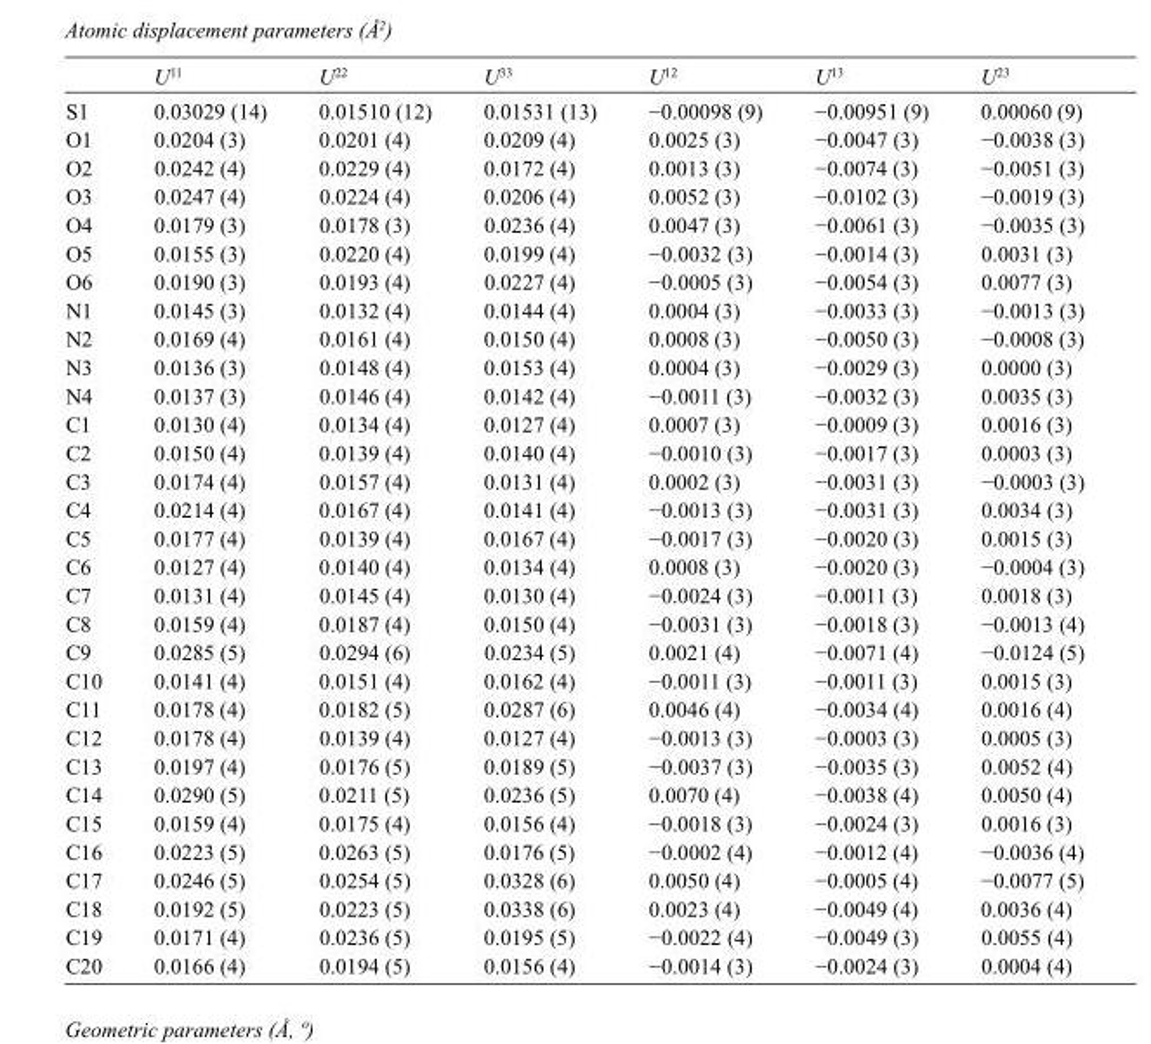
<table><thead><tr><td></td><td>U<sup>11</sup></td><td>U<sup>22</sup></td><td>U<sup>33</sup></td><td>U<sup>12</sup></td><td>U<sup>13</sup></td><td>U<sup>23</sup></td></tr></thead><tbody><tr><td>S1</td><td>0.03029 (14)</td><td>0.01510 (12)</td><td>0.01531 (13)</td><td>−0.00098 (9)</td><td>−0.00951 (9)</td><td>0.00060 (9)</td></tr><tr><td>O1</td><td>0.0204 (3)</td><td>0.0201 (4)</td><td>0.0209 (4)</td><td>0.0025 (3)</td><td>−0.0047 (3)</td><td>−0.0038 (3)</td></tr><tr><td>O2</td><td>0.0242 (4)</td><td>0.0229 (4)</td><td>0.0172 (4)</td><td>0.0013 (3)</td><td>−0.0074 (3)</td><td>−0.0051 (3)</td></tr><tr><td>O3</td><td>0.0247 (4)</td><td>0.0224 (4)</td><td>0.0206 (4)</td><td>0.0052 (3)</td><td>−0.0102 (3)</td><td>−0.0019 (3)</td></tr><tr><td>O4</td><td>0.0179 (3)</td><td>0.0178 (3)</td><td>0.0236 (4)</td><td>0.0047 (3)</td><td>−0.0061 (3)</td><td>−0.0035 (3)</td></tr><tr><td>O5</td><td>0.0155 (3)</td><td>0.0220 (4)</td><td>0.0199 (4)</td><td>−0.0032 (3)</td><td>−0.0014 (3)</td><td>0.0031 (3)</td></tr><tr><td>O6</td><td>0.0190 (3)</td><td>0.0193 (4)</td><td>0.0227 (4)</td><td>−0.0005 (3)</td><td>−0.0054 (3)</td><td>0.0077 (3)</td></tr><tr><td>N1</td><td>0.0145 (3)</td><td>0.0132 (4)</td><td>0.0144 (4)</td><td>0.0004 (3)</td><td>−0.0033 (3)</td><td>−0.0013 (3)</td></tr><tr><td>N2</td><td>0.0169 (4)</td><td>0.0161 (4)</td><td>0.0150 (4)</td><td>0.0008 (3)</td><td>−0.0050 (3)</td><td>−0.0008 (3)</td></tr><tr><td>N3</td><td>0.0136 (3)</td><td>0.0148 (4)</td><td>0.0153 (4)</td><td>0.0004 (3)</td><td>−0.0029 (3)</td><td>0.0000 (3)</td></tr><tr><td>N4</td><td>0.0137 (3)</td><td>0.0146 (4)</td><td>0.0142 (4)</td><td>−0.0011 (3)</td><td>−0.0032 (3)</td><td>0.0035 (3)</td></tr><tr><td>C1</td><td>0.0130 (4)</td><td>0.0134 (4)</td><td>0.0127 (4)</td><td>0.0007 (3)</td><td>−0.0009 (3)</td><td>0.0016 (3)</td></tr><tr><td>C2</td><td>0.0150 (4)</td><td>0.0139 (4)</td><td>0.0140 (4)</td><td>−0.0010 (3)</td><td>−0.0017 (3)</td><td>0.0003 (3)</td></tr><tr><td>C3</td><td>0.0174 (4)</td><td>0.0157 (4)</td><td>0.0131 (4)</td><td>0.0002 (3)</td><td>−0.0031 (3)</td><td>−0.0003 (3)</td></tr><tr><td>C4</td><td>0.0214 (4)</td><td>0.0167 (4)</td><td>0.0141 (4)</td><td>−0.0013 (3)</td><td>−0.0031 (3)</td><td>0.0034 (3)</td></tr><tr><td>C5</td><td>0.0177 (4)</td><td>0.0139 (4)</td><td>0.0167 (4)</td><td>−0.0017 (3)</td><td>−0.0020 (3)</td><td>0.0015 (3)</td></tr><tr><td>C6</td><td>0.0127 (4)</td><td>0.0140 (4)</td><td>0.0134 (4)</td><td>0.0008 (3)</td><td>−0.0020 (3)</td><td>−0.0004 (3)</td></tr><tr><td>C7</td><td>0.0131 (4)</td><td>0.0145 (4)</td><td>0.0130 (4)</td><td>−0.0024 (3)</td><td>−0.0011 (3)</td><td>0.0018 (3)</td></tr><tr><td>C8</td><td>0.0159 (4)</td><td>0.0187 (4)</td><td>0.0150 (4)</td><td>−0.0031 (3)</td><td>−0.0018 (3)</td><td>−0.0013 (4)</td></tr><tr><td>C9</td><td>0.0285 (5)</td><td>0.0294 (6)</td><td>0.0234 (5)</td><td>0.0021 (4)</td><td>−0.0071 (4)</td><td>−0.0124 (5)</td></tr><tr><td>C10</td><td>0.0141 (4)</td><td>0.0151 (4)</td><td>0.0162 (4)</td><td>−0.0011 (3)</td><td>−0.0011 (3)</td><td>0.0015 (3)</td></tr><tr><td>C11</td><td>0.0178 (4)</td><td>0.0182 (5)</td><td>0.0287 (6)</td><td>0.0046 (4)</td><td>−0.0034 (4)</td><td>0.0016 (4)</td></tr><tr><td>C12</td><td>0.0178 (4)</td><td>0.0139 (4)</td><td>0.0127 (4)</td><td>−0.0013 (3)</td><td>−0.0003 (3)</td><td>0.0005 (3)</td></tr><tr><td>C13</td><td>0.0197 (4)</td><td>0.0176 (5)</td><td>0.0189 (5)</td><td>−0.0037 (3)</td><td>−0.0035 (3)</td><td>0.0052 (4)</td></tr><tr><td>C14</td><td>0.0290 (5)</td><td>0.0211 (5)</td><td>0.0236 (5)</td><td>0.0070 (4)</td><td>−0.0038 (4)</td><td>0.0050 (4)</td></tr><tr><td>C15</td><td>0.0159 (4)</td><td>0.0175 (4)</td><td>0.0156 (4)</td><td>−0.0018 (3)</td><td>−0.0024 (3)</td><td>0.0016 (3)</td></tr><tr><td>C16</td><td>0.0223 (5)</td><td>0.0263 (5)</td><td>0.0176 (5)</td><td>−0.0002 (4)</td><td>−0.0012 (4)</td><td>−0.0036 (4)</td></tr><tr><td>C17</td><td>0.0246 (5)</td><td>0.0254 (5)</td><td>0.0328 (6)</td><td>0.0050 (4)</td><td>−0.0005 (4)</td><td>−0.0077 (5)</td></tr><tr><td>C18</td><td>0.0192 (5)</td><td>0.0223 (5)</td><td>0.0338 (6)</td><td>0.0023 (4)</td><td>−0.0049 (4)</td><td>0.0036 (4)</td></tr><tr><td>C19</td><td>0.0171 (4)</td><td>0.0236 (5)</td><td>0.0195 (5)</td><td>−0.0022 (4)</td><td>−0.0049 (3)</td><td>0.0055 (4)</td></tr><tr><td>C20</td><td>0.0166 (4)</td><td>0.0194 (5)</td><td>0.0156 (4)</td><td>−0.0014 (3)</td><td>−0.0024 (3)</td><td>0.0004 (4)</td></tr></tbody></table>